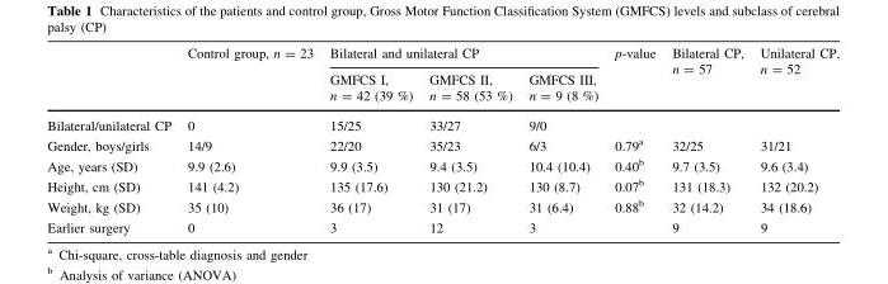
<table><thead><tr><td rowspan="2"></td><td rowspan="2">Control group, n = 23</td><td colspan="3">Bilateral and unilateral CP</td><td rowspan="2">p-value</td><td rowspan="2">Bilateral CP, n = 57</td><td rowspan="2">Unilateral CP, n = 52</td></tr><tr><td>GMFCS I, n = 42 (39 %)</td><td>GMFCS II, n = 58 (53 %)</td><td>GMFCS III, n = 9 (8 %)</td></tr></thead><tbody><tr><td>Bilateral/unilateral CP</td><td>0</td><td>15/25</td><td>33/27</td><td>9/0</td><td></td><td></td><td></td></tr><tr><td>Gender, boys/girls</td><td>14/9</td><td>22/20</td><td>35/23</td><td>6/3</td><td>0.79<sup>a</sup></td><td>32/25</td><td>31/21</td></tr><tr><td>Age, years (SD)</td><td>9.9 (2.6)</td><td>9.9 (3.5)</td><td>9.4 (3.5)</td><td>10.4 (10.4)</td><td>0.40<sup>b</sup></td><td>9.7 (3.5)</td><td>9.6 (3.4)</td></tr><tr><td>Height, cm (SD)</td><td>141 (4.2)</td><td>135 (17.6)</td><td>130 (21.2)</td><td>130 (8.7)</td><td>0.07<sup>b</sup></td><td>131 (18.3)</td><td>132 (20.2)</td></tr><tr><td>Weight, kg (SD)</td><td>35 (10)</td><td>36 (17)</td><td>31 (17)</td><td>31 (6.4)</td><td>0.88<sup>b</sup></td><td>32 (14.2)</td><td>34 (18.6)</td></tr><tr><td>Earlier surgery</td><td>0</td><td>3</td><td>12</td><td>3</td><td></td><td>9</td><td>9</td></tr></tbody></table>